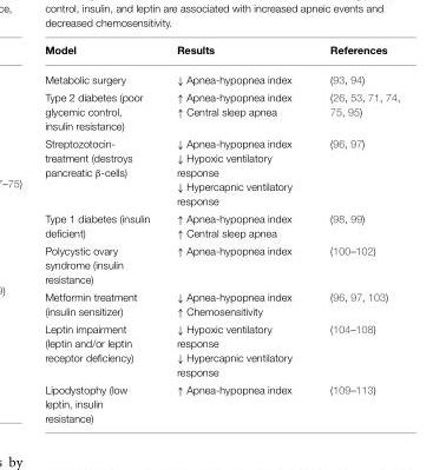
<table><thead><tr><td>Model</td><td>Results</td><td>References</td></tr></thead><tbody><tr><td>Metabolic surgery</td><td>↓ Apnea-hypopnea index</td><td>(93, 94)</td></tr><tr><td>Type 2 diabetes (poor glycemic control, insulin resistance)</td><td>↑ Apnea-hypopnea index ↑ Central sleep apnea</td><td>(26, 53, 71, 74, 75, 95)</td></tr><tr><td>Streptozotocin- treatment (destroys pancreatic β-cells)</td><td>↓ Apnea-hypopnea index ↓ Hypoxic ventilatory response ↓ Hypercapnic ventilatory response</td><td>(96, 97)</td></tr><tr><td>Type 1 diabetes (insulin deficient)</td><td>↑ Apnea-hypopnea index ↑ Central sleep apnea</td><td>(98, 99)</td></tr><tr><td>Polycystic ovary syndrome (insulin resistance)</td><td>↑ Apnea-hypopnea index</td><td>(100–102)</td></tr><tr><td>Metformin treatment (insulin sensitizer)</td><td>↓ Apnea-hypopnea index ↑ Chemosensitivity</td><td>(96, 97, 103)</td></tr><tr><td>Leptin impairment (leptin and/or leptin receptor deficiency)</td><td>↓ Hypoxic ventilatory response ↓ Hypercapnic ventilatory response</td><td>(104–108)</td></tr><tr><td>Lipodystophy (low leptin, insulin resistance)</td><td>↑ Apnea-hypopnea index</td><td>(109–113)</td></tr></tbody></table>